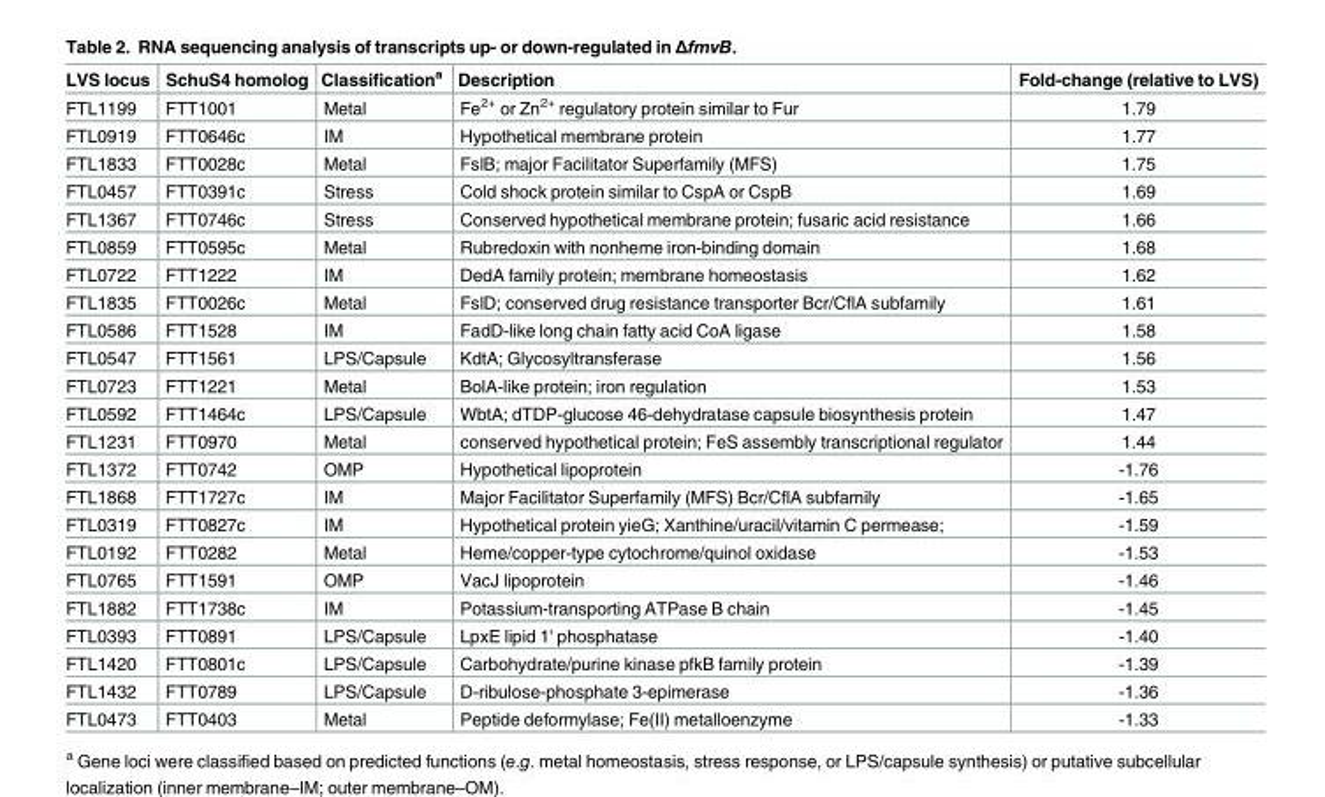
<table><thead><tr><td>LVS locus</td><td>SchuS4 homolog</td><td>Classification<sup>a</sup></td><td>Description</td><td>Fold-change (relative to LVS)</td></tr></thead><tbody><tr><td>FTL1199</td><td>FTT1001</td><td>Metal</td><td>Fe<sup>2+</sup> or Zn<sup>2+</sup> regulatory protein similar to Fur</td><td>1.79</td></tr><tr><td>FTL0919</td><td>FTT0646c</td><td>IM</td><td>Hypothetical membrane protein</td><td>1.77</td></tr><tr><td>FTL1833</td><td>FTT0028c</td><td>Metal</td><td>FslB; major Facilitator Superfamily (MFS)</td><td>1.75</td></tr><tr><td>FTL0457</td><td>FTT0391c</td><td>Stress</td><td>Cold shock protein similar to CspA or CspB</td><td>1.69</td></tr><tr><td>FTL1367</td><td>FTT0746c</td><td>Stress</td><td>Conserved hypothetical membrane protein; fusaric acid resistance</td><td>1.66</td></tr><tr><td>FTL0859</td><td>FTT0595c</td><td>Metal</td><td>Rubredoxin with nonheme iron-binding domain</td><td>1.68</td></tr><tr><td>FTL0722</td><td>FTT1222</td><td>IM</td><td>DedA family protein; membrane homeostasis</td><td>1.62</td></tr><tr><td>FTL1835</td><td>FTT0026c</td><td>Metal</td><td>FslD; conserved drug resistance transporter Bcr/CflA subfamily</td><td>1.61</td></tr><tr><td>FTL0586</td><td>FTT1528</td><td>IM</td><td>FadD-like long chain fatty acid CoA ligase</td><td>1.58</td></tr><tr><td>FTL0547</td><td>FTT1561</td><td>LPS/Capsule</td><td>KdtA; Glycosyltransferase</td><td>1.56</td></tr><tr><td>FTL0723</td><td>FTT1221</td><td>Metal</td><td>BolA-like protein; iron regulation</td><td>1.53</td></tr><tr><td>FTL0592</td><td>FTT1464c</td><td>LPS/Capsule</td><td>WbtA; dTDP-glucose 46-dehydratase capsule biosynthesis protein</td><td>1.47</td></tr><tr><td>FTL1231</td><td>FTT0970</td><td>Metal</td><td>conserved hypothetical protein; FeS assembly transcriptional regulator</td><td>1.44</td></tr><tr><td>FTL1372</td><td>FTT0742</td><td>OMP</td><td>Hypothetical lipoprotein</td><td>-1.76</td></tr><tr><td>FTL1868</td><td>FTT1727c</td><td>IM</td><td>Major Facilitator Superfamily (MFS) Bcr/CflA subfamily</td><td>-1.65</td></tr><tr><td>FTL0319</td><td>FTT0827c</td><td>IM</td><td>Hypothetical protein yieG; Xanthine/uracil/vitamin C permease;</td><td>-1.59</td></tr><tr><td>FTL0192</td><td>FTT0282</td><td>Metal</td><td>Heme/copper-type cytochrome/quinol oxidase</td><td>-1.53</td></tr><tr><td>FTL0765</td><td>FTT1591</td><td>OMP</td><td>VacJ lipoprotein</td><td>-1.46</td></tr><tr><td>FTL1882</td><td>FTT1738c</td><td>IM</td><td>Potassium-transporting ATPase B chain</td><td>-1.45</td></tr><tr><td>FTL0393</td><td>FTT0891</td><td>LPS/Capsule</td><td>LpxE lipid 1&#x27; phosphatase</td><td>-1.40</td></tr><tr><td>FTL1420</td><td>FTT0801c</td><td>LPS/Capsule</td><td>Carbohydrate/purine kinase pfkB family protein</td><td>-1.39</td></tr><tr><td>FTL1432</td><td>FTT0789</td><td>LPS/Capsule</td><td>D-ribulose-phosphate 3-epimerase</td><td>-1.36</td></tr><tr><td>FTL0473</td><td>FTT0403</td><td>Metal</td><td>Peptide deformylase; Fe(II) metalloenzyme</td><td>-1.33</td></tr></tbody></table>